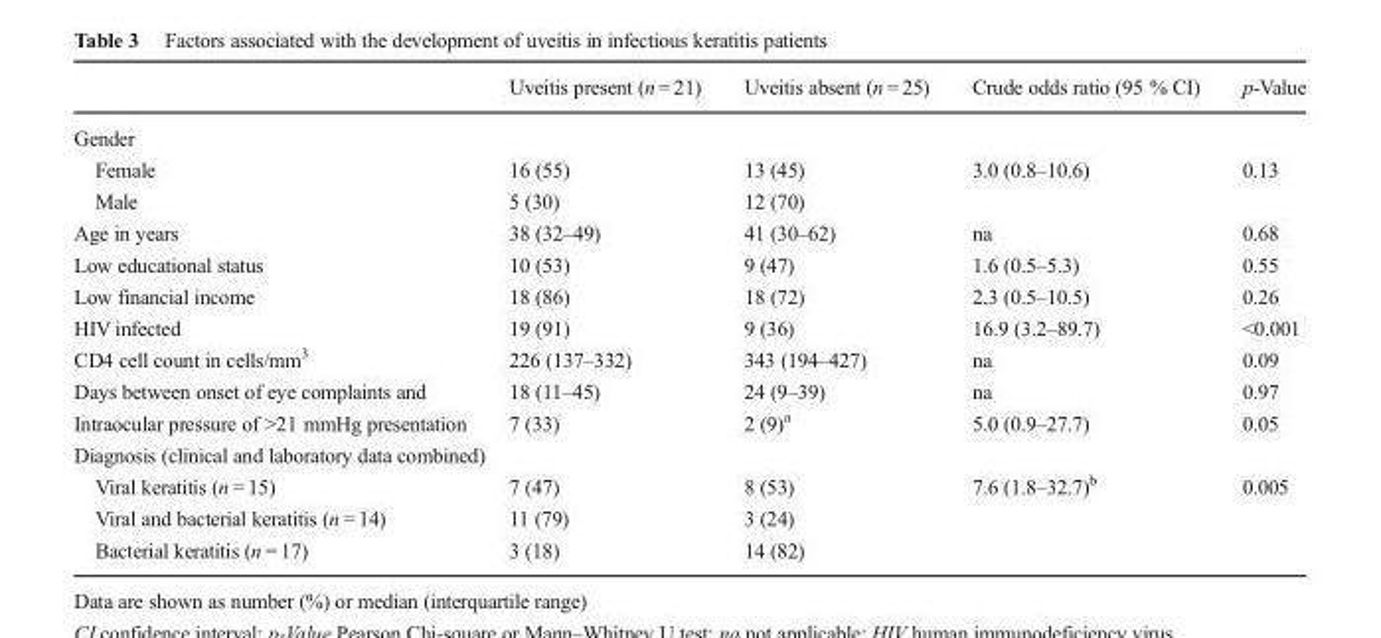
<table><thead><tr><td></td><td>Uveitis present (n = 21)</td><td>Uveitis absent (n = 25)</td><td>Crude odds ratio (95 % CI)</td><td>p-Value</td></tr></thead><tbody><tr><td colspan="5">Gender</td></tr><tr><td>Female</td><td>16 (55)</td><td>13 (45)</td><td>3.0 (0.8–10.6)</td><td>0.13</td></tr><tr><td>Male</td><td>5 (30)</td><td>12 (70)</td><td></td><td></td></tr><tr><td>Age in years</td><td>38 (32–49)</td><td>41 (30–62)</td><td>na</td><td>0.68</td></tr><tr><td>Low educational status</td><td>10 (53)</td><td>9 (47)</td><td>1.6 (0.5–5.3)</td><td>0.55</td></tr><tr><td>Low financial income</td><td>18 (86)</td><td>18 (72)</td><td>2.3 (0.5–10.5)</td><td>0.26</td></tr><tr><td>HIV infected</td><td>19 (91)</td><td>9 (36)</td><td>16.9 (3.2–89.7)</td><td>&lt;0.001</td></tr><tr><td>CD4 cell count in cells/mm<sup>3</sup></td><td>226 (137–332)</td><td>343 (194–427)</td><td>na</td><td>0.09</td></tr><tr><td>Days between onset of eye complaints and</td><td>18 (11–45)</td><td>24 (9–39)</td><td>na</td><td>0.97</td></tr><tr><td>Intraocular pressure of &gt;21 mmHg presentation</td><td>7 (33)</td><td>2 (9)<sup>a</sup></td><td>5.0 (0.9–27.7)</td><td>0.05</td></tr><tr><td colspan="5">Diagnosis (clinical and laboratory data combined)</td></tr><tr><td>Viral keratitis (n = 15)</td><td>7 (47)</td><td>8 (53)</td><td>7.6 (1.8–32.7)<sup>b</sup></td><td>0.005</td></tr><tr><td>Viral and bacterial keratitis (n = 14)</td><td>11 (79)</td><td>3 (24)</td><td></td><td></td></tr><tr><td>Bacterial keratitis (n = 17)</td><td>3 (18)</td><td>14 (82)</td><td></td><td></td></tr></tbody></table>